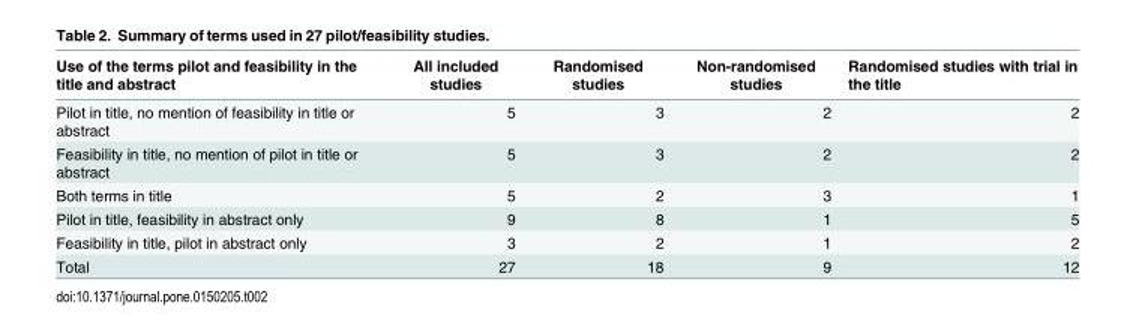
<table><thead><tr><td>Use of the terms pilot and feasibility in the title and abstract</td><td>All included studies</td><td>Randomised studies</td><td>Non-randomised studies</td><td>Randomised studies with trial in the title</td></tr></thead><tbody><tr><td>Pilot in title, no mention of feasibility in title or abstract</td><td>5</td><td>3</td><td>2</td><td>2</td></tr><tr><td>Feasibility in title, no mention of pilot in title or abstract</td><td>5</td><td>3</td><td>2</td><td>2</td></tr><tr><td>Both terms in title</td><td>5</td><td>2</td><td>3</td><td>1</td></tr><tr><td>Pilot in title, feasibility in abstract only</td><td>9</td><td>8</td><td>1</td><td>5</td></tr><tr><td>Feasibility in title, pilot in abstract only</td><td>3</td><td>2</td><td>1</td><td>2</td></tr><tr><td>Total</td><td>27</td><td>18</td><td>9</td><td>12</td></tr></tbody></table>